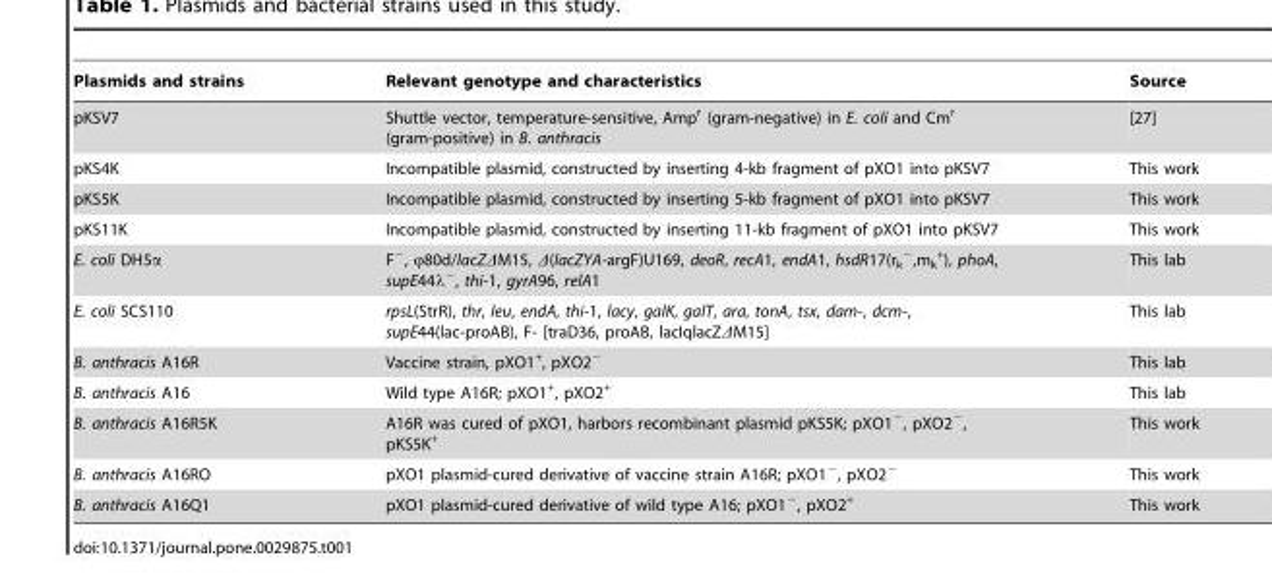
<table><thead><tr><td>Plasmids and strains</td><td>Relevant genotype and characteristics</td><td>Source</td></tr></thead><tbody><tr><td>pKSV7</td><td>Shuttle vector, temperature-sensitive, Amp<sup>r</sup> (gram-negative) in E. coli and Cm<sup>r</sup> (gram-positive) in B. anthracis</td><td>[27]</td></tr><tr><td>pKS4K</td><td>Incompatible plasmid, constructed by inserting 4-kb fragment of pXO1 into pKSV7</td><td>This work</td></tr><tr><td>pKS5K</td><td>Incompatible plasmid, constructed by inserting 5-kb fragment of pXO1 into pKSV7</td><td>This work</td></tr><tr><td>pKS11K</td><td>Incompatible plasmid, constructed by inserting 11-kb fragment of pXO1 into pKSV7</td><td>This work</td></tr><tr><td>E. coli DH5α</td><td>F<sup>−</sup>, ϕ80d/lacZΔM15, Δ(lacZYA-argF)U169, deoR, recA1, endA1, hsdR17(r<sub>k</sub> <sup>−</sup>,m<sub>k</sub> <sup>+</sup>), phoA, supE44λ<sup>−</sup>, thi-1, gyrA96, relA1</td><td>This lab</td></tr><tr><td>E. coli SCS110</td><td>rpsL(StrR), thr, leu, endA, thi-1, lacy, galK, galT, ara, tonA, tsx, dam-, dcm-, supE44(lac-proAB), F- [traD36, proAB, lacIqlacZΔM15]</td><td>This lab</td></tr><tr><td>B. anthracis A16R</td><td>Vaccine strain, pXO1<sup>+</sup>, pXO2<sup>−</sup></td><td>This lab</td></tr><tr><td>B. anthracis A16</td><td>Wild type A16R; pXO1<sup>+</sup>, pXO2<sup>+</sup></td><td>This lab</td></tr><tr><td>B. anthracis A16R5K</td><td>A16R was cured of pXO1, harbors recombinant plasmid pKS5K; pXO1<sup>−</sup>, pXO2<sup>−</sup>, pKS5K<sup>+</sup></td><td>This work</td></tr><tr><td>B. anthracis A16RO</td><td>pXO1 plasmid-cured derivative of vaccine strain A16R; pXO1<sup>−</sup>, pXO2<sup>−</sup></td><td>This work</td></tr><tr><td>B. anthracis A16Q1</td><td>pXO1 plasmid-cured derivative of wild type A16; pXO1<sup>−</sup>, pXO2<sup>+</sup></td><td>This work</td></tr></tbody></table>